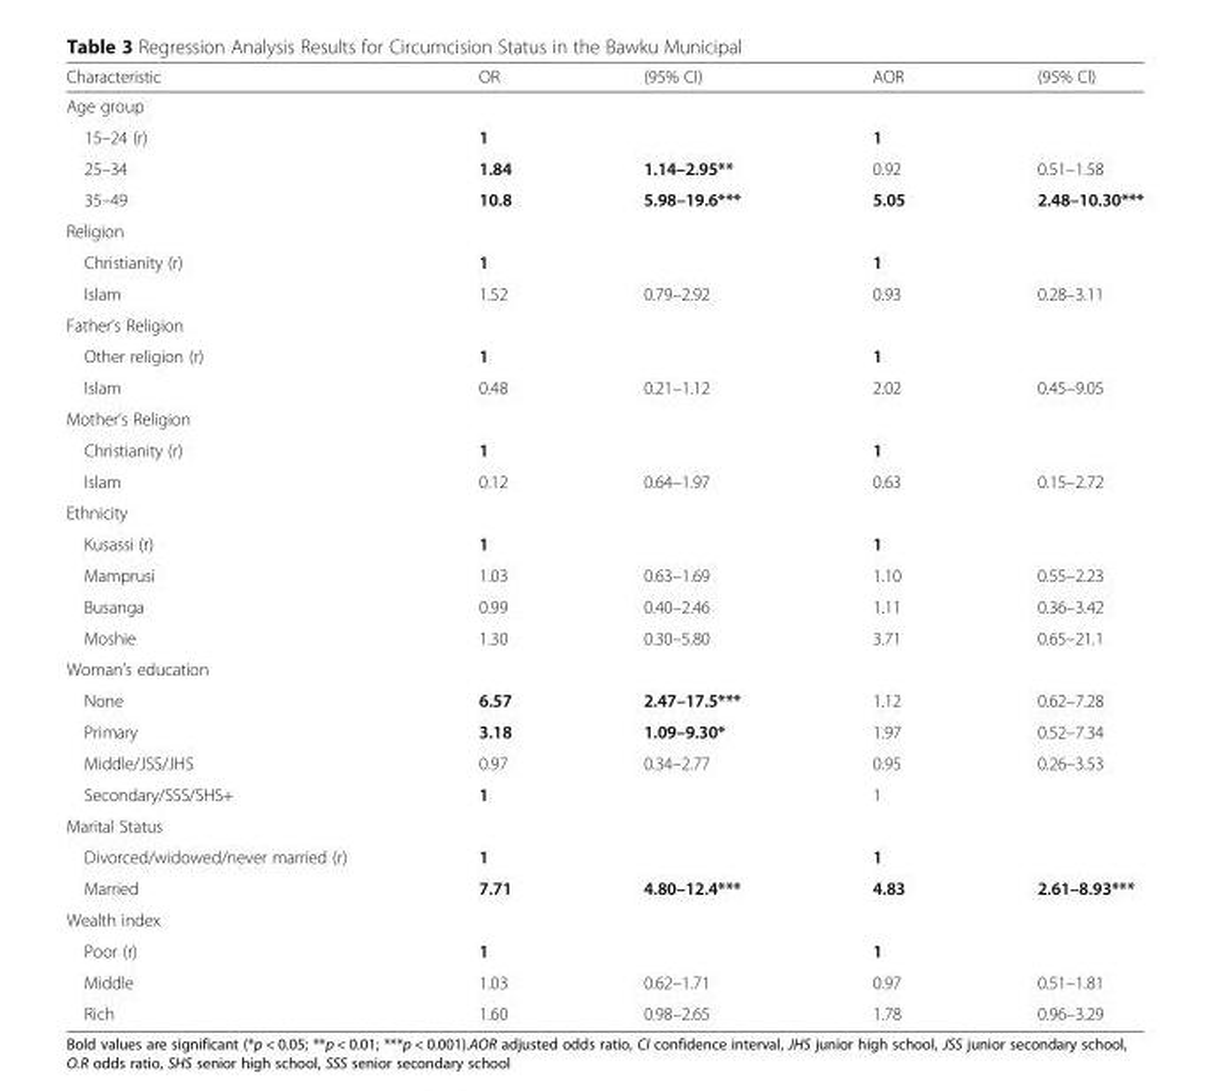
<table><thead><tr><td>Characteristic</td><td>OR</td><td>(95% CI)</td><td>AOR</td><td>(95% Cl)</td></tr></thead><tbody><tr><td colspan="5">Age group</td></tr><tr><td>15–24 (r)</td><td>1</td><td></td><td>1</td><td></td></tr><tr><td>25–34</td><td>1.84</td><td>1.14–2.95**</td><td>0.92</td><td>0.51–1.58</td></tr><tr><td>35–49</td><td>10.8</td><td>5.98–19.6***</td><td>5.05</td><td>2.48–10.30***</td></tr><tr><td colspan="5">Religion</td></tr><tr><td>Christianity (r)</td><td>1</td><td></td><td>1</td><td></td></tr><tr><td>Islam</td><td>1.52</td><td>0.79–2.92</td><td>0.93</td><td>0.28–3.11</td></tr><tr><td colspan="5">Father’s Religion</td></tr><tr><td>Other religion (r)</td><td>1</td><td></td><td>1</td><td></td></tr><tr><td>Islam</td><td>0.48</td><td>0.21–1.12</td><td>2.02</td><td>0.45–9.05</td></tr><tr><td colspan="5">Mother’s Religion</td></tr><tr><td>Christianity (r)</td><td>1</td><td></td><td>1</td><td></td></tr><tr><td>Islam</td><td>0.12</td><td>0.64–1.97</td><td>0.63</td><td>0.15–2.72</td></tr><tr><td colspan="5">Ethnicity</td></tr><tr><td>Kusassi (r)</td><td>1</td><td></td><td>1</td><td></td></tr><tr><td>Mamprusi</td><td>1.03</td><td>0.63–1.69</td><td>1.10</td><td>0.55–2.23</td></tr><tr><td>Busanga</td><td>0.99</td><td>0.40–2.46</td><td>1.11</td><td>0.36–3.42</td></tr><tr><td>Moshie</td><td>1.30</td><td>0.30–5.80</td><td>3.71</td><td>0.65–21.1</td></tr><tr><td colspan="5">Woman’s education</td></tr><tr><td>None</td><td>6.57</td><td>2.47–17.5***</td><td>1.12</td><td>0.62–7.28</td></tr><tr><td>Primary</td><td>3.18</td><td>1.09–9.30*</td><td>1.97</td><td>0.52–7.34</td></tr><tr><td>Middle/JSS/JHS</td><td>0.97</td><td>0.34–2.77</td><td>0.95</td><td>0.26–3.53</td></tr><tr><td>Secondary/SSS/SHS+</td><td>1</td><td></td><td>1</td><td></td></tr><tr><td colspan="5">Marital Status</td></tr><tr><td>Divorced/widowed/never married (r)</td><td>1</td><td></td><td>1</td><td></td></tr><tr><td>Married</td><td>7.71</td><td>4.80–12.4***</td><td>4.83</td><td>2.61–8.93***</td></tr><tr><td colspan="5">Wealth index</td></tr><tr><td>Poor (r)</td><td>1</td><td></td><td>1</td><td></td></tr><tr><td>Middle</td><td>1.03</td><td>0.62–1.71</td><td>0.97</td><td>0.51–1.81</td></tr><tr><td>Rich</td><td>1.60</td><td>0.98–2.65</td><td>1.78</td><td>0.96–3.29</td></tr></tbody></table>